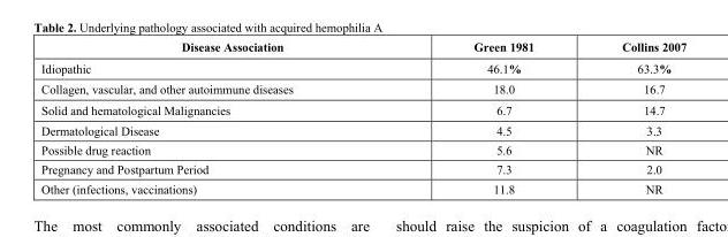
<table><thead><tr><td>Disease Association</td><td>Green 1981</td><td>Collins 2007</td></tr></thead><tbody><tr><td>Idiopathic</td><td>46.1%</td><td>63.3%</td></tr><tr><td>Collagen, vascular, and other autoimmune diseases</td><td>18.0</td><td>16.7</td></tr><tr><td>Solid and hematological Malignancies</td><td>6.7</td><td>14.7</td></tr><tr><td>Dermatological Disease</td><td>4.5</td><td>3.3</td></tr><tr><td>Possible drug reaction</td><td>5.6</td><td>NR</td></tr><tr><td>Pregnancy and Postpartum Period</td><td>7.3</td><td>2.0</td></tr><tr><td>Other (infections, vaccinations)</td><td>11.8</td><td>NR</td></tr></tbody></table>